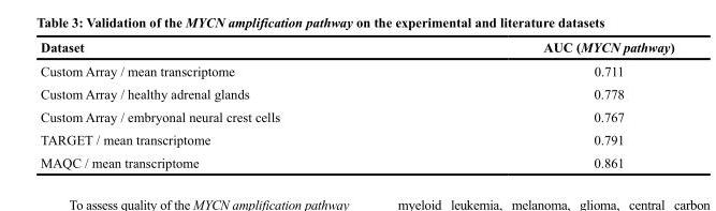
<table><thead><tr><td>Dataset</td><td>AUC (MYCN pathway)</td></tr></thead><tbody><tr><td>Custom Array / mean transcriptome</td><td>0.711</td></tr><tr><td>Custom Array / healthy adrenal glands</td><td>0.778</td></tr><tr><td>Custom Array / embryonal neural crest cells</td><td>0.767</td></tr><tr><td>TARGET / mean transcriptome</td><td>0.791</td></tr><tr><td>MAQC / mean transcriptome</td><td>0.861</td></tr></tbody></table>